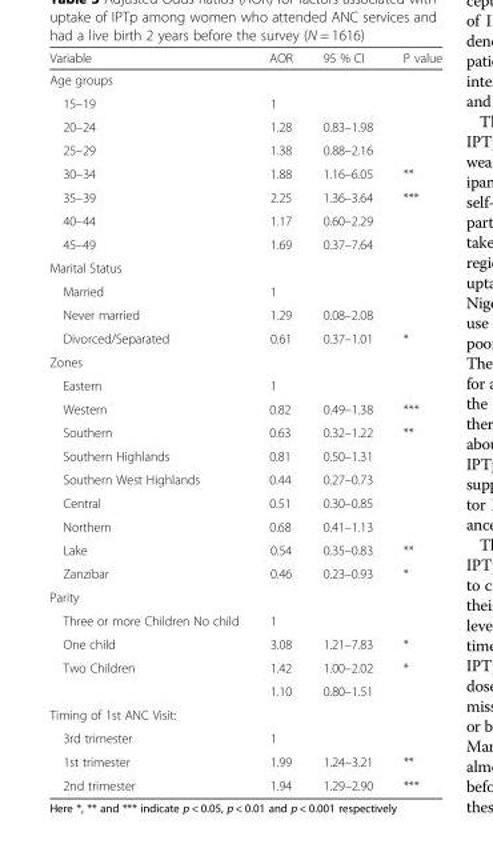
<table><thead><tr><td>Variable</td><td>AOR</td><td>95 % CI</td><td>P value</td></tr></thead><tbody><tr><td colspan="4">Age groups</td></tr><tr><td>15–19</td><td>1</td><td></td><td></td></tr><tr><td>20–24</td><td>1.28</td><td>0.83–1.98</td><td></td></tr><tr><td>25–29</td><td>1.38</td><td>0.88–2.16</td><td></td></tr><tr><td>30–34</td><td>1.88</td><td>1.16–6.05</td><td>**</td></tr><tr><td>35–39</td><td>2.25</td><td>1.36–3.64</td><td>***</td></tr><tr><td>40–44</td><td>1.17</td><td>0.60–2.29</td><td></td></tr><tr><td>45–49</td><td>1.69</td><td>0.37–7.64</td><td></td></tr><tr><td colspan="4">Marital Status</td></tr><tr><td>Married</td><td>1</td><td></td><td></td></tr><tr><td>Never married</td><td>1.29</td><td>0.08–2.08</td><td></td></tr><tr><td>Divorced/Separated</td><td>0.61</td><td>0.37–1.01</td><td>*</td></tr><tr><td colspan="4">Zones</td></tr><tr><td>Eastern</td><td>1</td><td></td><td></td></tr><tr><td>Western</td><td>0.82</td><td>0.49–1.38</td><td>***</td></tr><tr><td>Southern</td><td>0.63</td><td>0.32–1.22</td><td>**</td></tr><tr><td>Southern Highlands</td><td>0.81</td><td>0.50–1.31</td><td></td></tr><tr><td>Southern West Highlands</td><td>0.44</td><td>0.27–0.73</td><td></td></tr><tr><td>Central</td><td>0.51</td><td>0.30–0.85</td><td></td></tr><tr><td>Northern</td><td>0.68</td><td>0.41–1.13</td><td></td></tr><tr><td>Lake</td><td>0.54</td><td>0.35–0.83</td><td>**</td></tr><tr><td>Zanzibar</td><td>0.46</td><td>0.23–0.93</td><td>*</td></tr><tr><td colspan="4">Parity</td></tr><tr><td>Three or more Children No child</td><td>1</td><td></td><td></td></tr><tr><td>One child</td><td>3.08</td><td>1.21–7.83</td><td>*</td></tr><tr><td rowspan="2">Two Children</td><td>1.42</td><td>1.00–2.02</td><td>*</td></tr><tr><td>1.10</td><td>0.80–1.51</td><td></td></tr><tr><td colspan="4">Timing of 1st ANC Visit:</td></tr><tr><td>3rd trimester</td><td>1</td><td></td><td></td></tr><tr><td>1st trimester</td><td>1.99</td><td>1.24–3.21</td><td>**</td></tr><tr><td>2nd trimester</td><td>1.94</td><td>1.29–2.90</td><td>***</td></tr></tbody></table>